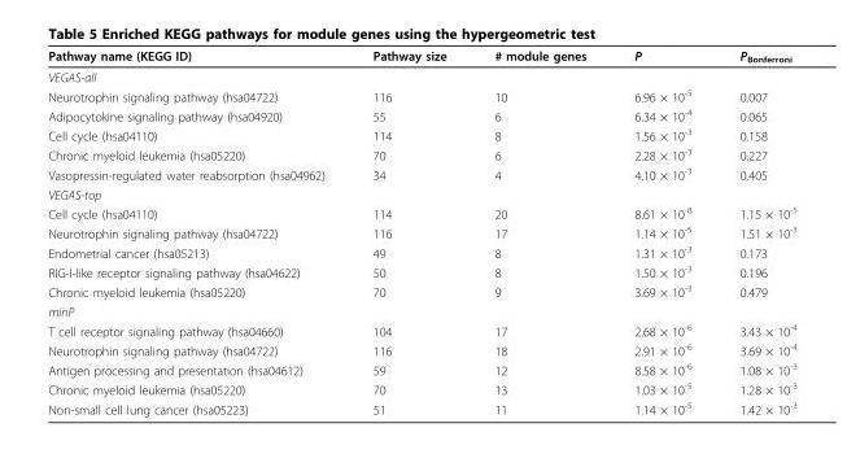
<table><thead><tr><td>Pathway name (KEGG ID)</td><td>Pathway size</td><td># module genes</td><td>P</td><td>P<sub>Bonferroni</sub></td></tr></thead><tbody><tr><td colspan="5">VEGAS-all</td></tr><tr><td>Neurotrophin signaling pathway (hsa04722)</td><td>116</td><td>10</td><td>6.96 × 10<sup>-5</sup></td><td>0.007</td></tr><tr><td>Adipocytokine signaling pathway (hsa04920)</td><td>55</td><td>6</td><td>6.34 × 10<sup>-4</sup></td><td>0.065</td></tr><tr><td>Cell cycle (hsa04110)</td><td>114</td><td>8</td><td>1.56 × 10<sup>-3</sup></td><td>0.158</td></tr><tr><td>Chronic myeloid leukemia (hsa05220)</td><td>70</td><td>6</td><td>2.28 × 10<sup>-3</sup></td><td>0.227</td></tr><tr><td>Vasopressin-regulated water reabsorption (hsa04962)</td><td>34</td><td>4</td><td>4.10 × 10<sup>-3</sup></td><td>0.405</td></tr><tr><td colspan="5">VEGAS-top</td></tr><tr><td>Cell cycle (hsa04110)</td><td>114</td><td>20</td><td>8.61 × 10<sup>-8</sup></td><td>1.15 × 10<sup>-5</sup></td></tr><tr><td>Neurotrophin signaling pathway (hsa04722)</td><td>116</td><td>17</td><td>1.14 × 10<sup>-5</sup></td><td>1.51 × 10<sup>-3</sup></td></tr><tr><td>Endometrial cancer (hsa05213)</td><td>49</td><td>8</td><td>1.31 × 10<sup>-3</sup></td><td>0.173</td></tr><tr><td>RIG-I-like receptor signaling pathway (hsa04622)</td><td>50</td><td>8</td><td>1.50 × 10<sup>-3</sup></td><td>0.196</td></tr><tr><td>Chronic myeloid leukemia (hsa05220)</td><td>70</td><td>9</td><td>3.69 × 10<sup>-3</sup></td><td>0.479</td></tr><tr><td colspan="5">minP</td></tr><tr><td>T cell receptor signaling pathway (hsa04660)</td><td>104</td><td>17</td><td>2.68 × 10<sup>-6</sup></td><td>3.43 × 10<sup>-4</sup></td></tr><tr><td>Neurotrophin signaling pathway (hsa04722)</td><td>116</td><td>18</td><td>2.91 × 10<sup>-6</sup></td><td>3.69 × 10<sup>-4</sup></td></tr><tr><td>Antigen processing and presentation (hsa04612)</td><td>59</td><td>12</td><td>8.58 × 10<sup>-6</sup></td><td>1.08 × 10<sup>-3</sup></td></tr><tr><td>Chronic myeloid leukemia (hsa05220)</td><td>70</td><td>13</td><td>1.03 × 10<sup>-5</sup></td><td>1.28 × 10<sup>-3</sup></td></tr><tr><td>Non-small cell lung cancer (hsa05223)</td><td>51</td><td>11</td><td>1.14 × 10<sup>-5</sup></td><td>1.42 × 10<sup>-3</sup></td></tr></tbody></table>